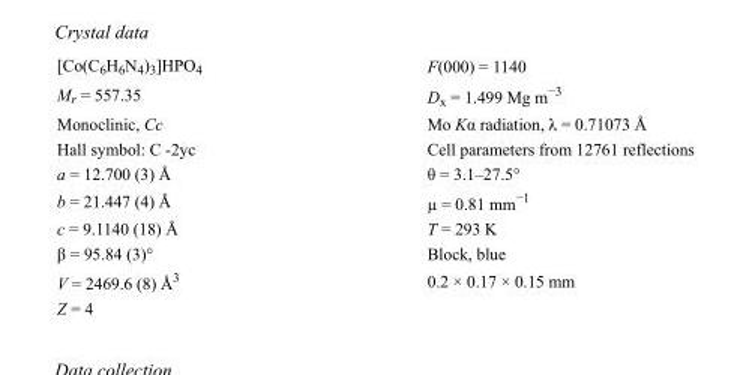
<table><tbody><tr><td>[Co(C<sub>6</sub>H<sub>6</sub>N<sub>4</sub>)<sub>3</sub>]HPO<sub>4</sub></td><td>F(000) = 1140</td></tr><tr><td>M<sub>r</sub> = 557.35</td><td>D<sub>x</sub> = 1.499 Mg m<sup>−3</sup></td></tr><tr><td>Monoclinic, Cc</td><td>Mo Kα radiation, λ = 0.71073 Å</td></tr><tr><td>Hall symbol: C -2yc</td><td>Cell parameters from 12761 reflections</td></tr><tr><td>a = 12.700 (3) Å</td><td>θ = 3.1–27.5°</td></tr><tr><td>b = 21.447 (4) Å</td><td>µ = 0.81 mm<sup>−1</sup></td></tr><tr><td>c = 9.1140 (18) Å</td><td>T = 293 K</td></tr><tr><td>β = 95.84 (3)°</td><td>Block, blue</td></tr><tr><td>V = 2469.6 (8) Å<sup>3</sup></td><td>0.2 × 0.17 × 0.15 mm</td></tr><tr><td>Z = 4</td><td></td></tr></tbody></table>